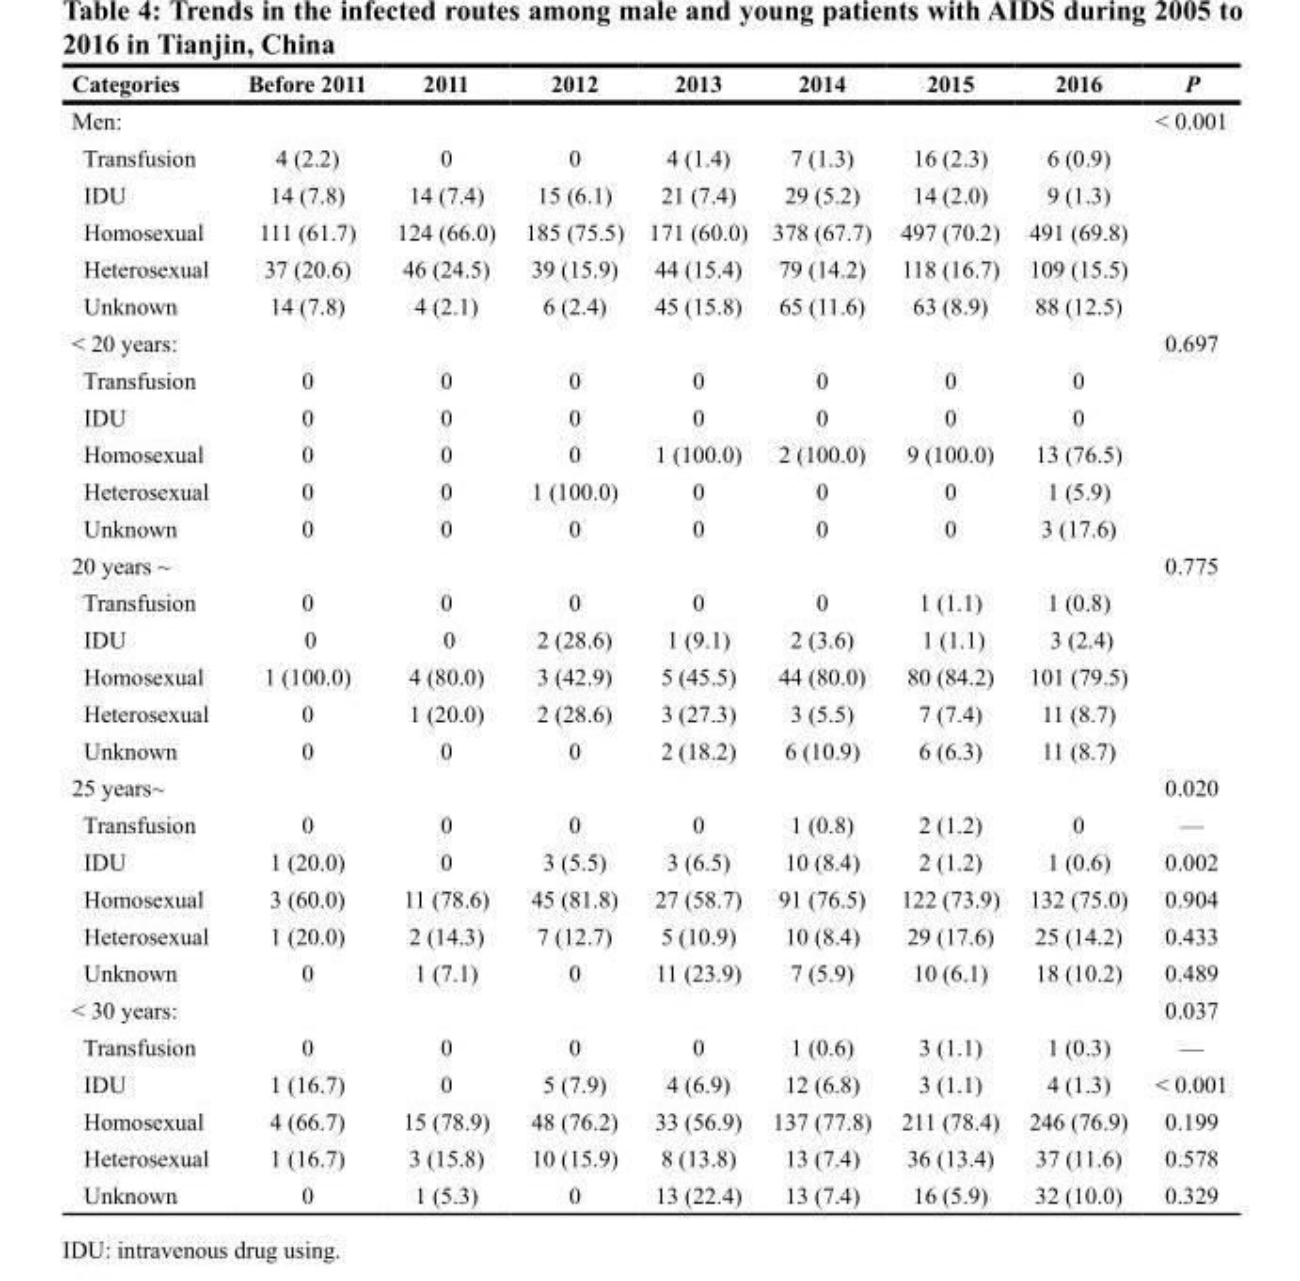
<table><thead><tr><td>Categories</td><td>Before 2011</td><td>2011</td><td>2012</td><td>2013</td><td>2014</td><td>2015</td><td>2016</td><td>P</td></tr></thead><tbody><tr><td>Men:</td><td></td><td></td><td></td><td></td><td></td><td></td><td></td><td>&lt; 0.001</td></tr><tr><td>Transfusion</td><td>4 (2.2)</td><td>0</td><td>0</td><td>4 (1.4)</td><td>7 (1.3)</td><td>16 (2.3)</td><td>6 (0.9)</td><td></td></tr><tr><td>IDU</td><td>14 (7.8)</td><td>14 (7.4)</td><td>15 (6.1)</td><td>21 (7.4)</td><td>29 (5.2)</td><td>14 (2.0)</td><td>9 (1.3)</td><td></td></tr><tr><td>Homosexual</td><td>111 (61.7)</td><td>124 (66.0)</td><td>185 (75.5)</td><td>171 (60.0)</td><td>378 (67.7)</td><td>497 (70.2)</td><td>491 (69.8)</td><td></td></tr><tr><td>Heterosexual</td><td>37 (20.6)</td><td>46 (24.5)</td><td>39 (15.9)</td><td>44 (15.4)</td><td>79 (14.2)</td><td>118 (16.7)</td><td>109 (15.5)</td><td></td></tr><tr><td>Unknown</td><td>14 (7.8)</td><td>4 (2.1)</td><td>6 (2.4)</td><td>45 (15.8)</td><td>65 (11.6)</td><td>63 (8.9)</td><td>88 (12.5)</td><td></td></tr><tr><td>&lt; 20 years:</td><td></td><td></td><td></td><td></td><td></td><td></td><td></td><td>0.697</td></tr><tr><td>Transfusion</td><td>0</td><td>0</td><td>0</td><td>0</td><td>0</td><td>0</td><td>0</td><td></td></tr><tr><td>IDU</td><td>0</td><td>0</td><td>0</td><td>0</td><td>0</td><td>0</td><td>0</td><td></td></tr><tr><td>Homosexual</td><td>0</td><td>0</td><td>0</td><td>1 (100.0)</td><td>2 (100.0)</td><td>9 (100.0)</td><td>13 (76.5)</td><td></td></tr><tr><td>Heterosexual</td><td>0</td><td>0</td><td>1 (100.0)</td><td>0</td><td>0</td><td>0</td><td>1 (5.9)</td><td></td></tr><tr><td>Unknown</td><td>0</td><td>0</td><td>0</td><td>0</td><td>0</td><td>0</td><td>3 (17.6)</td><td></td></tr><tr><td>20 years ~</td><td></td><td></td><td></td><td></td><td></td><td></td><td></td><td>0.775</td></tr><tr><td>Transfusion</td><td>0</td><td>0</td><td>0</td><td>0</td><td>0</td><td>1 (1.1)</td><td>1 (0.8)</td><td></td></tr><tr><td>IDU</td><td>0</td><td>0</td><td>2 (28.6)</td><td>1 (9.1)</td><td>2 (3.6)</td><td>1 (1.1)</td><td>3 (2.4)</td><td></td></tr><tr><td>Homosexual</td><td>1 (100.0)</td><td>4 (80.0)</td><td>3 (42.9)</td><td>5 (45.5)</td><td>44 (80.0)</td><td>80 (84.2)</td><td>101 (79.5)</td><td></td></tr><tr><td>Heterosexual</td><td>0</td><td>1 (20.0)</td><td>2 (28.6)</td><td>3 (27.3)</td><td>3 (5.5)</td><td>7 (7.4)</td><td>11 (8.7)</td><td></td></tr><tr><td>Unknown</td><td>0</td><td>0</td><td>0</td><td>2 (18.2)</td><td>6 (10.9)</td><td>6 (6.3)</td><td>11 (8.7)</td><td></td></tr><tr><td>25 years~</td><td></td><td></td><td></td><td></td><td></td><td></td><td></td><td>0.020</td></tr><tr><td>Transfusion</td><td>0</td><td>0</td><td>0</td><td>0</td><td>1 (0.8)</td><td>2 (1.2)</td><td>0</td><td>—</td></tr><tr><td>IDU</td><td>1 (20.0)</td><td>0</td><td>3 (5.5)</td><td>3 (6.5)</td><td>10 (8.4)</td><td>2 (1.2)</td><td>1 (0.6)</td><td>0.002</td></tr><tr><td>Homosexual</td><td>3 (60.0)</td><td>11 (78.6)</td><td>45 (81.8)</td><td>27 (58.7)</td><td>91 (76.5)</td><td>122 (73.9)</td><td>132 (75.0)</td><td>0.904</td></tr><tr><td>Heterosexual</td><td>1 (20.0)</td><td>2 (14.3)</td><td>7 (12.7)</td><td>5 (10.9)</td><td>10 (8.4)</td><td>29 (17.6)</td><td>25 (14.2)</td><td>0.433</td></tr><tr><td>Unknown</td><td>0</td><td>1 (7.1)</td><td>0</td><td>11 (23.9)</td><td>7 (5.9)</td><td>10 (6.1)</td><td>18 (10.2)</td><td>0.489</td></tr><tr><td>&lt; 30 years:</td><td></td><td></td><td></td><td></td><td></td><td></td><td></td><td>0.037</td></tr><tr><td>Transfusion</td><td>0</td><td>0</td><td>0</td><td>0</td><td>1 (0.6)</td><td>3 (1.1)</td><td>1 (0.3)</td><td>—</td></tr><tr><td>IDU</td><td>1 (16.7)</td><td>0</td><td>5 (7.9)</td><td>4 (6.9)</td><td>12 (6.8)</td><td>3 (1.1)</td><td>4 (1.3)</td><td>&lt; 0.001</td></tr><tr><td>Homosexual</td><td>4 (66.7)</td><td>15 (78.9)</td><td>48 (76.2)</td><td>33 (56.9)</td><td>137 (77.8)</td><td>211 (78.4)</td><td>246 (76.9)</td><td>0.199</td></tr><tr><td>Heterosexual</td><td>1 (16.7)</td><td>3 (15.8)</td><td>10 (15.9)</td><td>8 (13.8)</td><td>13 (7.4)</td><td>36 (13.4)</td><td>37 (11.6)</td><td>0.578</td></tr><tr><td>Unknown</td><td>0</td><td>1 (5.3)</td><td>0</td><td>13 (22.4)</td><td>13 (7.4)</td><td>16 (5.9)</td><td>32 (10.0)</td><td>0.329</td></tr></tbody></table>